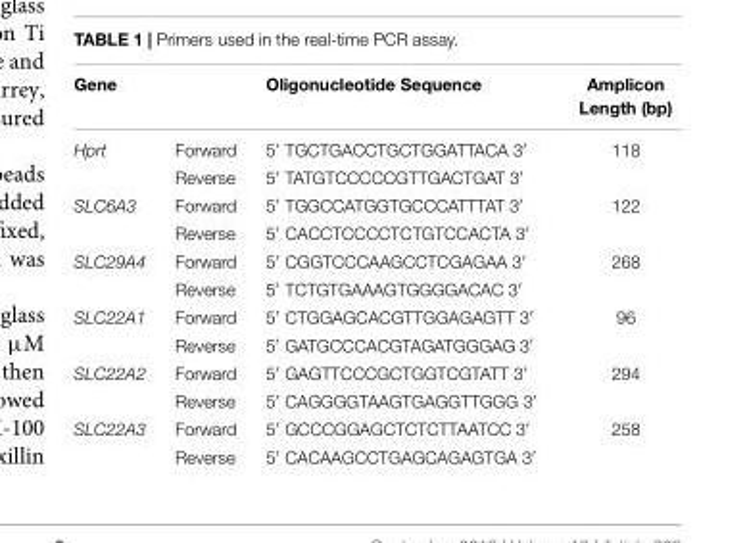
<table><thead><tr><td>Gene</td><td></td><td>Oligonucleotide Sequence</td><td>Amplicon Length (bp)</td></tr></thead><tbody><tr><td rowspan="2">Hprt</td><td>Forward</td><td>5′ TGCTGACCTGCTGGATTACA 3′</td><td>118</td></tr><tr><td>Reverse</td><td>5′ TATGTCCCCCGTTGACTGAT 3′</td><td></td></tr><tr><td rowspan="2">SLC6A3</td><td>Forward</td><td>5′ TGGCCATGGTGCCCATTTAT 3′</td><td>122</td></tr><tr><td>Reverse</td><td>5′ CACCTCCCCTCTGTCCACTA 3′</td><td></td></tr><tr><td rowspan="2">SLC29A4</td><td>Forward</td><td>5′ CGGTCCCAAGCCTCGAGAA 3′</td><td>268</td></tr><tr><td>Reverse</td><td>5′ TCTGTGAAAGTGGGGACAC 3′</td><td></td></tr><tr><td rowspan="2">SLC22A1</td><td>Forward</td><td>5′ CTGGAGCACGTTGGAGAGTT 3′</td><td>96</td></tr><tr><td>Reverse</td><td>5′ GATGCCCACGTAGATGGGAG 3′</td><td></td></tr><tr><td rowspan="2">SLC22A2</td><td>Forward</td><td>5′ GAGTTCCCGCTGGTCGTATT 3′</td><td>294</td></tr><tr><td>Reverse</td><td>5′ CAGGGGTAAGTGAGGTTGGG 3′</td><td></td></tr><tr><td rowspan="2">SLC22A3</td><td>Forward</td><td>5′ GCCCGGAGCTCTCTTAATCC 3′</td><td>258</td></tr><tr><td>Reverse</td><td>5′ CACAAGCCTGAGCAGAGTGA 3′</td><td></td></tr></tbody></table>